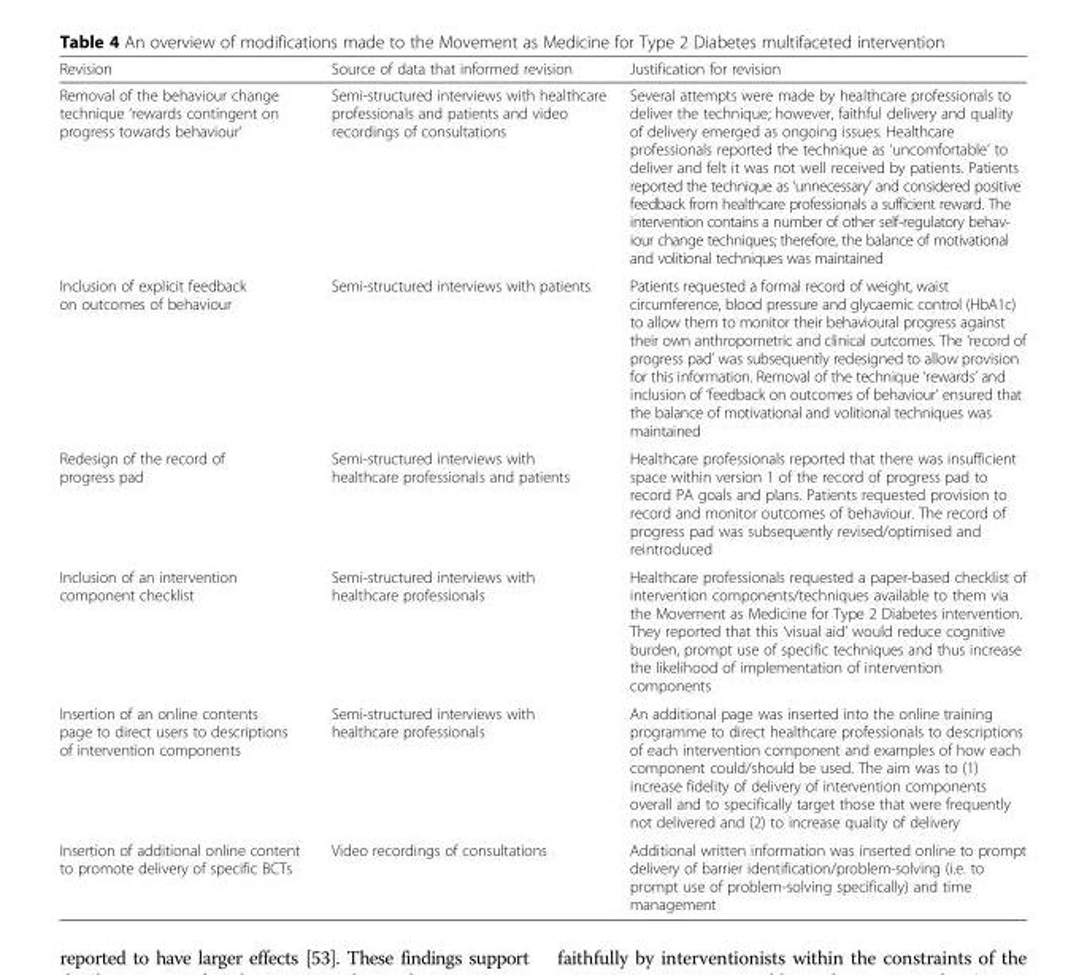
<table><thead><tr><td>Revision</td><td>Source of data that informed revision</td><td>Justification for revision</td></tr></thead><tbody><tr><td>Removal of the behaviour change technique ‘rewards contingent on progress towards behaviour’</td><td>Semi-structured interviews with healthcare professionals and patients and video recordings of consultations</td><td>Several attempts were made by healthcare professionals to deliver the technique; however, faithful delivery and quality of delivery emerged as ongoing issues. Healthcare professionals reported the technique as ‘uncomfortable’ to deliver and felt it was not well received by patients. Patients reported the technique as ‘unnecessary’ and considered positive feedback from healthcare professionals a sufficient reward. The intervention contains a number of other self-regulatory behav- iour change techniques; therefore, the balance of motivational and volitional techniques was maintained</td></tr><tr><td>Inclusion of explicit feedback on outcomes of behaviour</td><td>Semi-structured interviews with patients</td><td>Patients requested a formal record of weight, waist circumference, blood pressure and glycaemic control (HbA1c) to allow them to monitor their behavioural progress against their own anthropometric and clinical outcomes. The ‘record of progress pad’ was subsequently redesigned to allow provision for this information. Removal of the technique ‘rewards’ and inclusion of ‘feedback on outcomes of behaviour’ ensured that the balance of motivational and volitional techniques was maintained</td></tr><tr><td>Redesign of the record of progress pad</td><td>Semi-structured interviews with healthcare professionals and patients</td><td>Healthcare professionals reported that there was insufficient space within version 1 of the record of progress pad to record PA goals and plans. Patients requested provision to record and monitor outcomes of behaviour. The record of progress pad was subsequently revised/optimised and reintroduced</td></tr><tr><td>Inclusion of an intervention component checklist</td><td>Semi-structured interviews with healthcare professionals</td><td>Healthcare professionals requested a paper-based checklist of intervention components/techniques available to them via the Movement as Medicine for Type 2 Diabetes intervention. They reported that this ‘visual aid’ would reduce cognitive burden, prompt use of specific techniques and thus increase the likelihood of implementation of intervention components</td></tr><tr><td>Insertion of an online contents page to direct users to descriptions of intervention components</td><td>Semi-structured interviews with healthcare professionals</td><td>An additional page was inserted into the online training programme to direct healthcare professionals to descriptions of each intervention component and examples of how each component could/should be used. The aim was to (1) increase fidelity of delivery of intervention components overall and to specifically target those that were frequently not delivered and (2) to increase quality of delivery</td></tr><tr><td>Insertion of additional online content to promote delivery of specific BCTs</td><td>Video recordings of consultations</td><td>Additional written information was inserted online to prompt delivery of barrier identification/problem-solving (i.e. to prompt use of problem-solving specifically) and time management</td></tr></tbody></table>